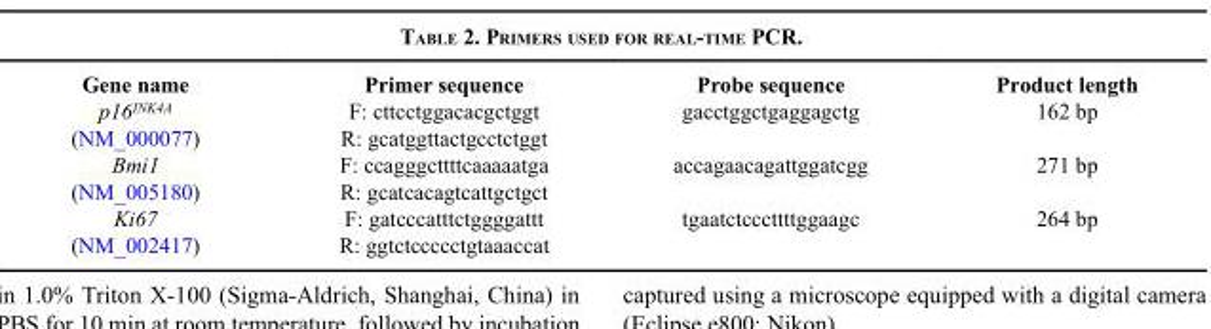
<table><tbody><tr><td>Gene name</td><td>Primer sequence</td><td>Probe sequence</td><td>Product length</td></tr><tr><td>p16<sup>INK4A</sup></td><td>F: cttcctggacacgctggt</td><td>gacctggctgaggagctg</td><td>162 bp</td></tr><tr><td>(NM_000077)</td><td>R: gcatggttactgcctctggt</td><td></td><td></td></tr><tr><td>Bmi1</td><td>F: ccagggcttttcaaaaatga</td><td>accagaacagattggatcgg</td><td>271 bp</td></tr><tr><td>(NM_005180)</td><td>R: gcatcacagtcattgctgct</td><td></td><td></td></tr><tr><td>Ki67</td><td>F: gatcccatttctggggattt</td><td>tgaatctcccttttggaagc</td><td>264 bp</td></tr><tr><td>(NM_002417)</td><td>R: ggtctccccctgtaaaccat</td><td></td><td></td></tr></tbody></table>